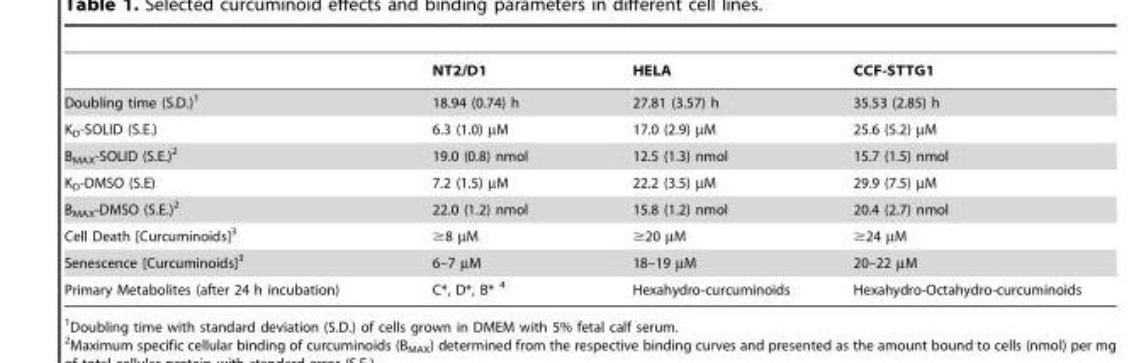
<table><thead><tr><td></td><td>NT2/D1</td><td>HELA</td><td>CCF-STTG1</td></tr></thead><tbody><tr><td>Doubling time (S.D.)<sup>1</sup></td><td>18.94 (0.74) h</td><td>27.81 (3.57) h</td><td>35.53 (2.85) h</td></tr><tr><td>K<sub>D</sub>-SOLID (S.E.)</td><td>6.3 (1.0) µM</td><td>17.0 (2.9) µM</td><td>25.6 (5.2) µM</td></tr><tr><td>B<sub>MAX</sub>-SOLID (S.E.)<sup>2</sup></td><td>19.0 (0.8) nmol</td><td>12.5 (1.3) nmol</td><td>15.7 (1.5) nmol</td></tr><tr><td>K<sub>D</sub>-DMSO (S.E)</td><td>7.2 (1.5) µM</td><td>22.2 (3.5) µM</td><td>29.9 (7.5) µM</td></tr><tr><td>B<sub>MAX</sub>-DMSO (S.E.)<sup>2</sup></td><td>22.0 (1.2) nmol</td><td>15.8 (1.2) nmol</td><td>20.4 (2.7) nmol</td></tr><tr><td>Cell Death [Curcuminoids]<sup>3</sup></td><td>≥8 µM</td><td>≥20 µM</td><td>≥24 µM</td></tr><tr><td>Senescence [Curcuminoids]<sup>3</sup></td><td>6–7 µM</td><td>18–19 µM</td><td>20–22 µM</td></tr><tr><td>Primary Metabolites (after 24 h incubation)</td><td>C*, D*, B* 4</td><td>Hexahydro-curcuminoids</td><td>Hexahydro-Octahydro-curcuminoids</td></tr></tbody></table>